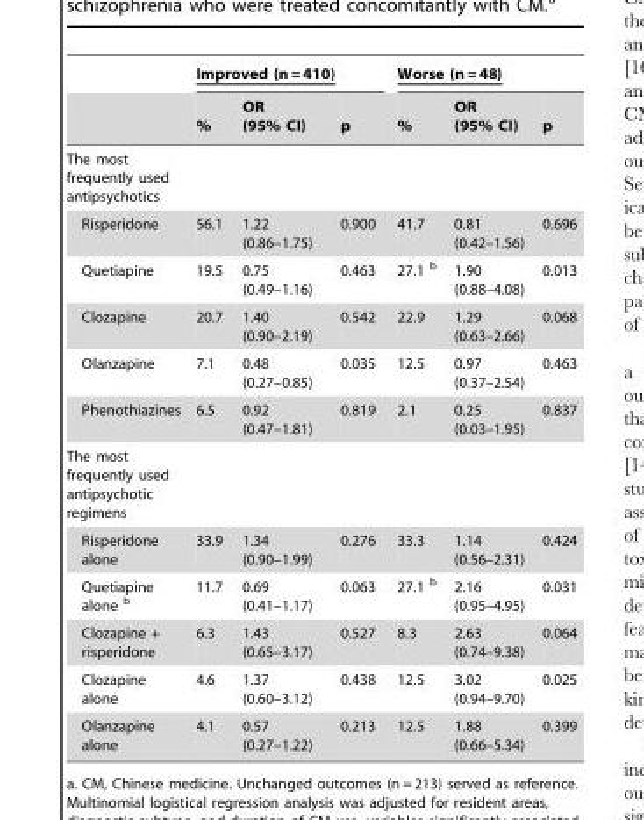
<table><thead><tr><td rowspan="2"></td><td colspan="3">Improved (n = 410)</td><td colspan="3">Worse (n = 48)</td></tr><tr><td>%</td><td>OR (95% CI)</td><td>p</td><td>%</td><td>OR (95% CI)</td><td>p</td></tr></thead><tbody><tr><td colspan="7">The most frequently used antipsychotics</td></tr><tr><td>Risperidone</td><td>56.1</td><td>1.22 (0.86–1.75)</td><td>0.900</td><td>41.7</td><td>0.81 (0.42–1.56)</td><td>0.696</td></tr><tr><td>Quetiapine</td><td>19.5</td><td>0.75 (0.49–1.16)</td><td>0.463</td><td>27.1 b</td><td>1.90 (0.88–4.08)</td><td>0.013</td></tr><tr><td>Clozapine</td><td>20.7</td><td>1.40 (0.90–2.19)</td><td>0.542</td><td>22.9</td><td>1.29 (0.63–2.66)</td><td>0.068</td></tr><tr><td>Olanzapine</td><td>7.1</td><td>0.48 (0.27–0.85)</td><td>0.035</td><td>12.5</td><td>0.97 (0.37–2.54)</td><td>0.463</td></tr><tr><td>Phenothiazines</td><td>6.5</td><td>0.92 (0.47–1.81)</td><td>0.819</td><td>2.1</td><td>0.25 (0.03–1.95)</td><td>0.837</td></tr><tr><td colspan="7">The most frequently used antipsychotic regimens</td></tr><tr><td>Risperidone alone</td><td>33.9</td><td>1.34 (0.90–1.99)</td><td>0.276</td><td>33.3</td><td>1.14 (0.56–2.31)</td><td>0.424</td></tr><tr><td>Quetiapine alone b</td><td>11.7</td><td>0.69 (0.41–1.17)</td><td>0.063</td><td>27.1 b</td><td>2.16 (0.95–4.95)</td><td>0.031</td></tr><tr><td>Clozapine + risperidone</td><td>6.3</td><td>1.43 (0.65–3.17)</td><td>0.527</td><td>8.3</td><td>2.63 (0.74–9.38)</td><td>0.064</td></tr><tr><td>Clozapine alone</td><td>4.6</td><td>1.37 (0.60–3.12)</td><td>0.438</td><td>12.5</td><td>3.02 (0.94–9.70)</td><td>0.025</td></tr><tr><td>Olanzapine alone</td><td>4.1</td><td>0.57 (0.27–1.22)</td><td>0.213</td><td>12.5</td><td>1.88 (0.66–5.34)</td><td>0.399</td></tr></tbody></table>